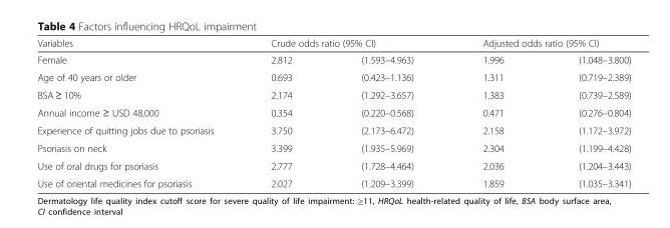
<table><thead><tr><td rowspan="2">Variables Female</td><td colspan="2">Crude odds ratio (95% CI)</td><td colspan="2">Adjusted odds ratio (95% CI)</td></tr><tr><td>2.812</td><td>(1.593–4.963)</td><td>1.996</td><td>(1.048–3.800)</td></tr></thead><tbody><tr><td>Age of 40 years or older</td><td>0.693</td><td>(0.423–1.136)</td><td>1.311</td><td>(0.719–2.389)</td></tr><tr><td>BSA ≥ 10%</td><td>2.174</td><td>(1.292–3.657)</td><td>1.383</td><td>(0.739–2.589)</td></tr><tr><td>Annual income ≥ USD 48,000</td><td>0.354</td><td>(0.220–0.568)</td><td>0.471</td><td>(0.276–0.804)</td></tr><tr><td>Experience of quitting jobs due to psoriasis</td><td>3.750</td><td>(2.173–6.472)</td><td>2.158</td><td>(1.172–3.972)</td></tr><tr><td>Psoriasis on neck</td><td>3.399</td><td>(1.935–5.969)</td><td>2.304</td><td>(1.199–4.428)</td></tr><tr><td>Use of oral drugs for psoriasis</td><td>2.777</td><td>(1.728–4.464)</td><td>2.036</td><td>(1.204–3.443)</td></tr><tr><td>Use of oriental medicines for psoriasis</td><td>2.027</td><td>(1.209–3.399)</td><td>1.859</td><td>(1.035–3.341)</td></tr></tbody></table>